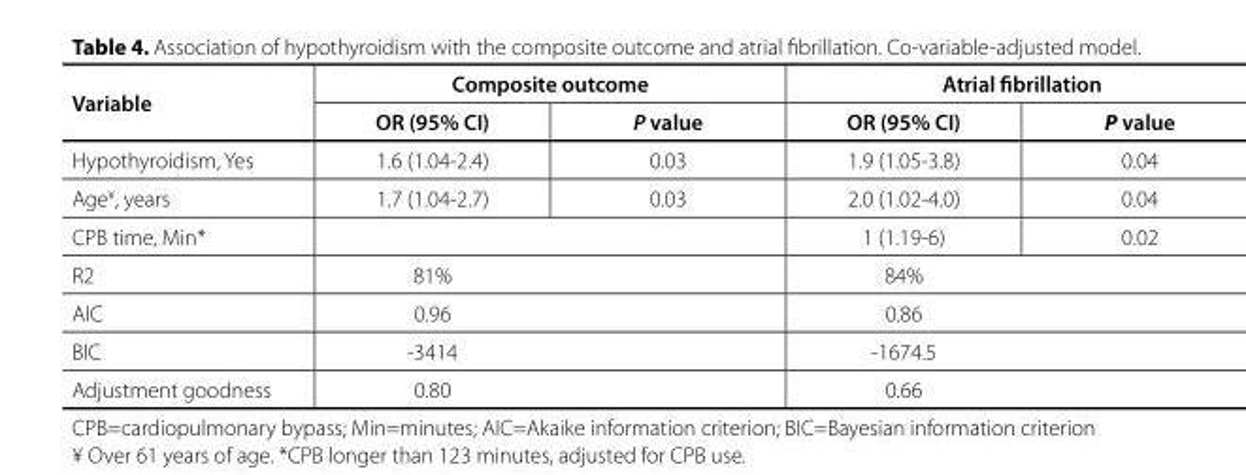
<table><thead><tr><td rowspan="2">Variable</td><td colspan="2">Composite outcome</td><td colspan="2">Atrial fibrillation</td></tr><tr><td>OR (95% CI)</td><td>P value</td><td>OR (95% CI)</td><td>P value</td></tr></thead><tbody><tr><td>Hypothyroidism, Yes</td><td>1.6 (1.04-2.4)</td><td>0.03</td><td>1.9 (1.05-3.8)</td><td>0.04</td></tr><tr><td>Age¥, years</td><td>1.7 (1.04-2.7)</td><td>0.03</td><td>2.0 (1.02-4.0)</td><td>0.04</td></tr><tr><td>CPB time, Min*</td><td colspan="2"></td><td>1 (1.19-6)</td><td>0.02</td></tr><tr><td>R2</td><td colspan="2">81%</td><td colspan="2">84%</td></tr><tr><td>AIC</td><td colspan="2">0.96</td><td colspan="2">0.86</td></tr><tr><td>BIC</td><td colspan="2">-3414</td><td colspan="2">-1674.5</td></tr><tr><td>Adjustment goodness</td><td colspan="2">0.80</td><td colspan="2">0.66</td></tr></tbody></table>